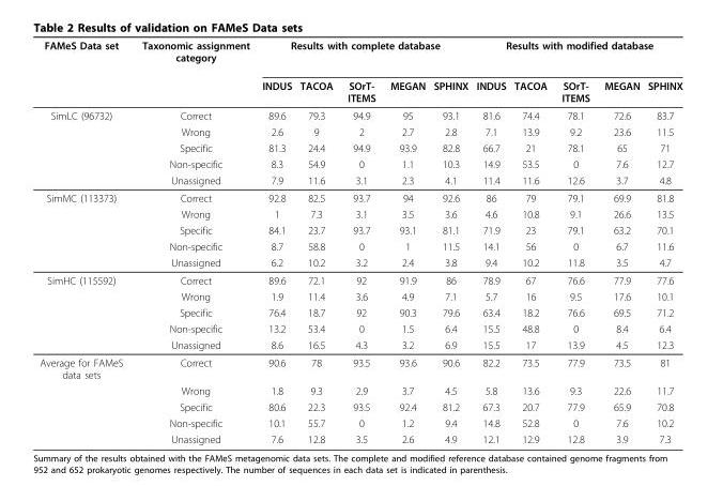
<table><thead><tr><td rowspan="2">FAMeS Data set</td><td rowspan="2">Taxonomic assignment category</td><td colspan="5">Results with complete database</td><td colspan="5">Results with modified database</td></tr><tr><td>INDUS</td><td>TACOA</td><td>SOrT- ITEMS</td><td>MEGAN</td><td>SPHINX</td><td>INDUS</td><td>TACOA</td><td>SOrT- ITEMS</td><td>MEGAN</td><td>SPHINX</td></tr></thead><tbody><tr><td rowspan="5">SimLC (96732)</td><td>Correct</td><td>89.6</td><td>79.3</td><td>94.9</td><td>95</td><td>93.1</td><td>81.6</td><td>74.4</td><td>78.1</td><td>72.6</td><td>83.7</td></tr><tr><td>Wrong</td><td>2.6</td><td>9</td><td>2</td><td>2.7</td><td>2.8</td><td>7.1</td><td>13.9</td><td>9.2</td><td>23.6</td><td>11.5</td></tr><tr><td>Specific</td><td>81.3</td><td>24.4</td><td>94.9</td><td>93.9</td><td>82.8</td><td>66.7</td><td>21</td><td>78.1</td><td>65</td><td>71</td></tr><tr><td>Non-specific</td><td>8.3</td><td>54.9</td><td>0</td><td>1.1</td><td>10.3</td><td>14.9</td><td>53.5</td><td>0</td><td>7.6</td><td>12.7</td></tr><tr><td>Unassigned</td><td>7.9</td><td>11.6</td><td>3.1</td><td>2.3</td><td>4.1</td><td>11.4</td><td>11.6</td><td>12.6</td><td>3.7</td><td>4.8</td></tr><tr><td rowspan="5">SimMC (113373)</td><td>Correct</td><td>92.8</td><td>82.5</td><td>93.7</td><td>94</td><td>92.6</td><td>86</td><td>79</td><td>79.1</td><td>69.9</td><td>81.8</td></tr><tr><td>Wrong</td><td>1</td><td>7.3</td><td>3.1</td><td>3.5</td><td>3.6</td><td>4.6</td><td>10.8</td><td>9.1</td><td>26.6</td><td>13.5</td></tr><tr><td>Specific</td><td>84.1</td><td>23.7</td><td>93.7</td><td>93.1</td><td>81.1</td><td>71.9</td><td>23</td><td>79.1</td><td>63.2</td><td>70.1</td></tr><tr><td>Non-specific</td><td>8.7</td><td>58.8</td><td>0</td><td>1</td><td>11.5</td><td>14.1</td><td>56</td><td>0</td><td>6.7</td><td>11.6</td></tr><tr><td>Unassigned</td><td>6.2</td><td>10.2</td><td>3.2</td><td>2.4</td><td>3.8</td><td>9.4</td><td>10.2</td><td>11.8</td><td>3.5</td><td>4.7</td></tr><tr><td rowspan="5">SimHC (115592)</td><td>Correct</td><td>89.6</td><td>72.1</td><td>92</td><td>91.9</td><td>86</td><td>78.9</td><td>67</td><td>76.6</td><td>77.9</td><td>77.6</td></tr><tr><td>Wrong</td><td>1.9</td><td>11.4</td><td>3.6</td><td>4.9</td><td>7.1</td><td>5.7</td><td>16</td><td>9.5</td><td>17.6</td><td>10.1</td></tr><tr><td>Specific</td><td>76.4</td><td>18.7</td><td>92</td><td>90.3</td><td>79.6</td><td>63.4</td><td>18.2</td><td>76.6</td><td>69.5</td><td>71.2</td></tr><tr><td>Non-specific</td><td>13.2</td><td>53.4</td><td>0</td><td>1.5</td><td>6.4</td><td>15.5</td><td>48.8</td><td>0</td><td>8.4</td><td>6.4</td></tr><tr><td>Unassigned</td><td>8.6</td><td>16.5</td><td>4.3</td><td>3.2</td><td>6.9</td><td>15.5</td><td>17</td><td>13.9</td><td>4.5</td><td>12.3</td></tr><tr><td rowspan="5">Average for FAMeS data sets</td><td>Correct</td><td>90.6</td><td>78</td><td>93.5</td><td>93.6</td><td>90.6</td><td>82.2</td><td>73.5</td><td>77.9</td><td>73.5</td><td>81</td></tr><tr><td>Wrong</td><td>1.8</td><td>9.3</td><td>2.9</td><td>3.7</td><td>4.5</td><td>5.8</td><td>13.6</td><td>9.3</td><td>22.6</td><td>11.7</td></tr><tr><td>Specific</td><td>80.6</td><td>22.3</td><td>93.5</td><td>92.4</td><td>81.2</td><td>67.3</td><td>20.7</td><td>77.9</td><td>65.9</td><td>70.8</td></tr><tr><td>Non-specific</td><td>10.1</td><td>55.7</td><td>0</td><td>1.2</td><td>9.4</td><td>14.8</td><td>52.8</td><td>0</td><td>7.6</td><td>10.2</td></tr><tr><td>Unassigned</td><td>7.6</td><td>12.8</td><td>3.5</td><td>2.6</td><td>4.9</td><td>12.1</td><td>12.9</td><td>12.8</td><td>3.9</td><td>7.3</td></tr></tbody></table>